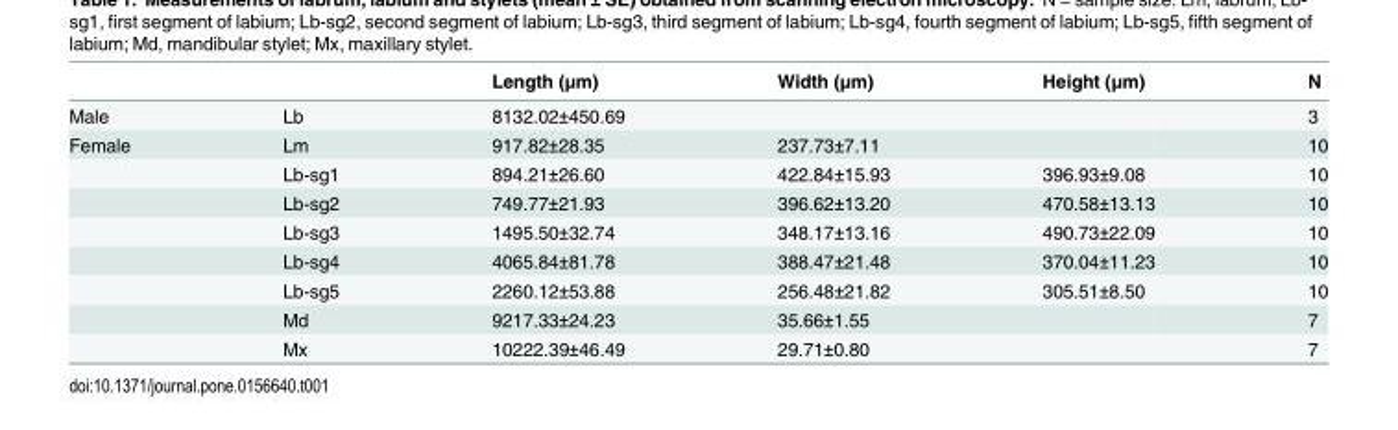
<table><thead><tr><td></td><td></td><td>Length (μm)</td><td>Width (μm)</td><td>Height (μm)</td><td>N</td></tr></thead><tbody><tr><td>Male</td><td>Lb</td><td>8132.02±450.69</td><td></td><td></td><td>3</td></tr><tr><td rowspan="8">Female</td><td>Lm</td><td>917.82±28.35</td><td>237.73±7.11</td><td></td><td>10</td></tr><tr><td>Lb-sg1</td><td>894.21±26.60</td><td>422.84±15.93</td><td>396.93±9.08</td><td>10</td></tr><tr><td>Lb-sg2</td><td>749.77±21.93</td><td>396.62±13.20</td><td>470.58±13.13</td><td>10</td></tr><tr><td>Lb-sg3</td><td>1495.50±32.74</td><td>348.17±13.16</td><td>490.73±22.09</td><td>10</td></tr><tr><td>Lb-sg4</td><td>4065.84±81.78</td><td>388.47±21.48</td><td>370.04±11.23</td><td>10</td></tr><tr><td>Lb-sg5</td><td>2260.12±53.88</td><td>256.48±21.82</td><td>305.51±8.50</td><td>10</td></tr><tr><td>Md</td><td>9217.33±24.23</td><td>35.66±1.55</td><td></td><td>7</td></tr><tr><td>Mx</td><td>10222.39±46.49</td><td>29.71±0.80</td><td></td><td>7</td></tr></tbody></table>